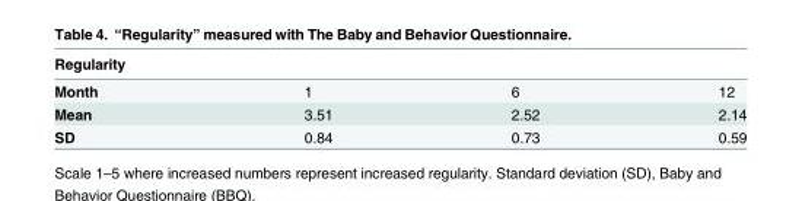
<table><thead><tr><td>Regularity</td><td></td><td></td><td></td></tr></thead><tbody><tr><td>Month</td><td>1</td><td>6</td><td>12</td></tr><tr><td>Mean</td><td>3.51</td><td>2.52</td><td>2.14</td></tr><tr><td>SD</td><td>0.84</td><td>0.73</td><td>0.59</td></tr></tbody></table>